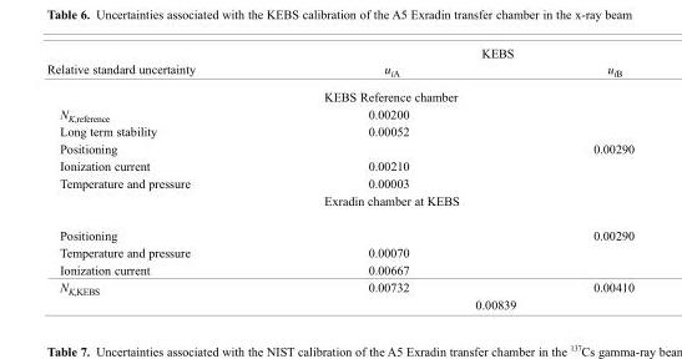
<table><thead><tr><td rowspan="2">Relative standard uncertainty</td><td colspan="2">KEBS</td></tr><tr><td>u<sub>iA</sub></td><td>u<sub>iB</sub></td></tr></thead><tbody><tr><td></td><td>KEBS Reference chamber</td><td></td></tr><tr><td>N<sub>K,reference</sub></td><td>0.00200</td><td></td></tr><tr><td>Long term stability</td><td>0.00052</td><td></td></tr><tr><td>Positioning</td><td></td><td>0.00290</td></tr><tr><td>Ionization current</td><td>0.00210</td><td></td></tr><tr><td rowspan="2">Temperature and pressure</td><td>0.00003</td><td></td></tr><tr><td>Exradin chamber at KEBS</td><td></td></tr><tr><td>Positioning</td><td></td><td>0.00290</td></tr><tr><td>Temperature and pressure</td><td>0.00070</td><td></td></tr><tr><td>Ionization current</td><td>0.00667</td><td></td></tr><tr><td rowspan="2">N<sub>K,KEBS</sub></td><td>0.00732</td><td>0.00410</td></tr><tr><td colspan="2">0.00839</td></tr></tbody></table>